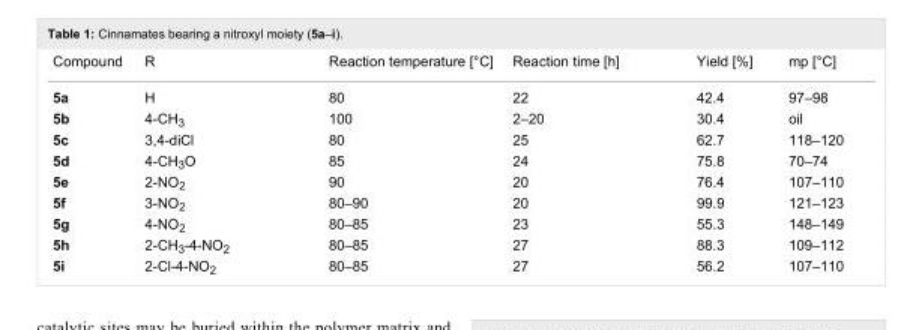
<table><tbody><tr><td>Compound</td><td>R</td><td>Reaction temperature [°C]</td><td>Reaction time [h]</td><td>Yield [%]</td><td>mp [°C]</td></tr><tr><td>5a</td><td>H</td><td>80</td><td>22</td><td>42.4</td><td>97–98</td></tr><tr><td>5b</td><td>4-CH<sub>3</sub></td><td>100</td><td>2–20</td><td>30.4</td><td>oil</td></tr><tr><td>5c</td><td>3,4-diCl</td><td>80</td><td>25</td><td>62.7</td><td>118–120</td></tr><tr><td>5d</td><td>4-CH<sub>3</sub>O</td><td>85</td><td>24</td><td>75.8</td><td>70–74</td></tr><tr><td>5e</td><td>2-NO<sub>2</sub></td><td>90</td><td>20</td><td>76.4</td><td>107–110</td></tr><tr><td>5f</td><td>3-NO<sub>2</sub></td><td>80–90</td><td>20</td><td>99.9</td><td>121–123</td></tr><tr><td>5g</td><td>4-NO<sub>2</sub></td><td>80–85</td><td>23</td><td>55.3</td><td>148–149</td></tr><tr><td>5h</td><td>2-CH<sub>3</sub>-4-NO<sub>2</sub></td><td>80–85</td><td>27</td><td>88.3</td><td>109–112</td></tr><tr><td>5i</td><td>2-Cl-4-NO<sub>2</sub></td><td>80–85</td><td>27</td><td>56.2</td><td>107–110</td></tr></tbody></table>